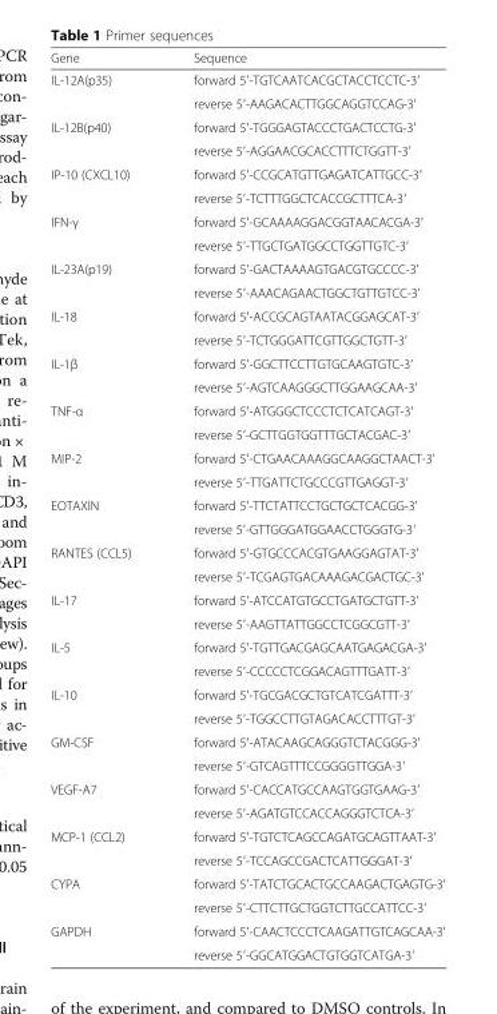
<table><thead><tr><td>Gene</td><td>Sequence</td></tr></thead><tbody><tr><td rowspan="2">IL-12A(p35)</td><td>forward 5′-TGTCAATCACGCTACCTCCTC-3′</td></tr><tr><td>reverse 5′-AAGACACTTGGCAGGTCCAG-3′</td></tr><tr><td rowspan="2">IL-12B(p40)</td><td>forward 5′-TGGGAGTACCCTGACTCCTG-3′</td></tr><tr><td>reverse 5′-AGGAACGCACCTTTCTGGTT-3′</td></tr><tr><td rowspan="2">IP-10 (CXCL10)</td><td>forward 5′-CCGCATGTTGAGATCATTGCC-3′</td></tr><tr><td>reverse 5′-TCTTTGGCTCACCGCTTTCA-3′</td></tr><tr><td rowspan="2">IFN-γ</td><td>forward 5′-GCAAAAGGACGGTAACACGA-3′</td></tr><tr><td>reverse 5′-TTGCTGATGGCCTGGTTGTC-3′</td></tr><tr><td rowspan="2">IL-23A(p19)</td><td>forward 5′-GACTAAAAGTGACGTGCCCC-3′</td></tr><tr><td>reverse 5′-AAACAGAACTGGCTGTTGTCC-3′</td></tr><tr><td rowspan="2">IL-18</td><td>forward 5′-ACCGCAGTAATACGGAGCAT-3′</td></tr><tr><td>reverse 5′-TCTGGGATTCGTTGGCTGTT-3′</td></tr><tr><td rowspan="2">IL-1β</td><td>forward 5′-GGCTTCCTTGTGCAAGTGTC-3′</td></tr><tr><td>reverse 5′-AGTCAAGGGCTTGGAAGCAA-3′</td></tr><tr><td rowspan="2">TNF-α</td><td>forward 5′-ATGGGCTCCCTCTCATCAGT-3′</td></tr><tr><td>reverse 5′-GCTTGGTGGTTTGCTACGAC-3′</td></tr><tr><td rowspan="2">MIP-2</td><td>forward 5′-CTGAACAAAGGCAAGGCTAACT-3′</td></tr><tr><td>reverse 5′-TTGATTCTGCCCGTTGAGGT-3′</td></tr><tr><td rowspan="2">EOTAXIN</td><td>forward 5′-TTCTATTCCTGCTGCTCACGG-3′</td></tr><tr><td>reverse 5′-GTTGGGATGGAACCTGGGTG-3′</td></tr><tr><td rowspan="2">RANTES (CCL5)</td><td>forward 5′-GTGCCCACGTGAAGGAGTAT-3′</td></tr><tr><td>reverse 5′-TCGAGTGACAAAGACGACTGC-3′</td></tr><tr><td rowspan="2">IL-17</td><td>forward 5′-ATCCATGTGCCTGATGCTGTT-3′</td></tr><tr><td>reverse 5′-AAGTTATTGGCCTCGGCGTT-3′</td></tr><tr><td rowspan="2">IL-5</td><td>forward 5′-TGTTGACGAGCAATGAGACGA-3′</td></tr><tr><td>reverse 5′-CCCCCTCGGACAGTTTGATT-3′</td></tr><tr><td rowspan="2">IL-10</td><td>forward 5′-TGCGACGCTGTCATCGATTT-3′</td></tr><tr><td>reverse 5′-TGGCCTTGTAGACACCTTTGT-3′</td></tr><tr><td rowspan="2">GM-CSF</td><td>forward 5′-ATACAAGCAGGGTCTACGGG-3′</td></tr><tr><td>reverse 5′-GTCAGTTTCCGGGGTTGGA-3′</td></tr><tr><td rowspan="2">VEGF-A7</td><td>forward 5′-CACCATGCCAAGTGGTGAAG-3′</td></tr><tr><td>reverse 5′-AGATGTCCACCAGGGTCTCA-3′</td></tr><tr><td rowspan="2">MCP-1 (CCL2)</td><td>forward 5′-TGTCTCAGCCAGATGCAGTTAAT-3′</td></tr><tr><td>reverse 5′-TCCAGCCGACTCATTGGGAT-3′</td></tr><tr><td rowspan="2">CYPA</td><td>forward 5′-TATCTGCACTGCCAAGACTGAGTG-3′</td></tr><tr><td>reverse 5′-CTTCTTGCTGGTCTTGCCATTCC-3′</td></tr><tr><td rowspan="2">GAPDH</td><td>forward 5′-CAACTCCCTCAAGATTGTCAGCAA-3′</td></tr><tr><td>reverse 5′-GGCATGGACTGTGGTCATGA-3′</td></tr></tbody></table>